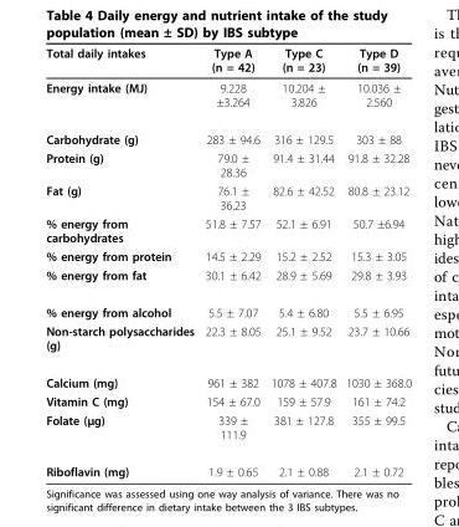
<table><thead><tr><td>Total daily intakes</td><td>Type A (n = 42)</td><td>Type C (n = 23)</td><td>Type D (n = 39)</td></tr></thead><tbody><tr><td>Energy intake (MJ)</td><td>9.228 ±3.264</td><td>10.204 ± 3.826</td><td>10.036 ± 2.560</td></tr><tr><td>Carbohydrate (g)</td><td>283 ± 94.6</td><td>316 ± 129.5</td><td>303 ± 88</td></tr><tr><td>Protein (g)</td><td>79.0 ± 28.36</td><td>91.4 ± 31.44</td><td>91.8 ± 32.28</td></tr><tr><td>Fat (g)</td><td>76.1 ± 36.23</td><td>82.6 ± 42.52</td><td>80.8 ± 23.12</td></tr><tr><td>% energy from carbohydrates</td><td>51.8 ± 7.57</td><td>52.1 ± 6.91</td><td>50.7 ±6.94</td></tr><tr><td>% energy from protein</td><td>14.5 ± 2.29</td><td>15.2 ± 2.52</td><td>15.3 ± 3.05</td></tr><tr><td>% energy from fat</td><td>30.1 ± 6.42</td><td>28.9 ± 5.69</td><td>29.8 ± 3.93</td></tr><tr><td>% energy from alcohol</td><td>5.5 ± 7.07</td><td>5.4 ± 6.80</td><td>5.5 ± 6.95</td></tr><tr><td>Non-starch polysaccharides (g)</td><td>22.3 ± 8.05</td><td>25.1 ± 9.52</td><td>23.7 ± 10.66</td></tr><tr><td>Calcium (mg)</td><td>961 ± 382</td><td>1078 ± 407.8</td><td>1030 ± 368.0</td></tr><tr><td>Vitamin C (mg)</td><td>154 ± 67.0</td><td>159 ± 57.9</td><td>161 ± 74.2</td></tr><tr><td>Folate (μg)</td><td>339 ± 111.9</td><td>381 ± 127.8</td><td>355 ± 99.5</td></tr><tr><td>Riboflavin (mg)</td><td>1.9 ± 0.65</td><td>2.1 ± 0.88</td><td>2.1 ± 0.72</td></tr></tbody></table>